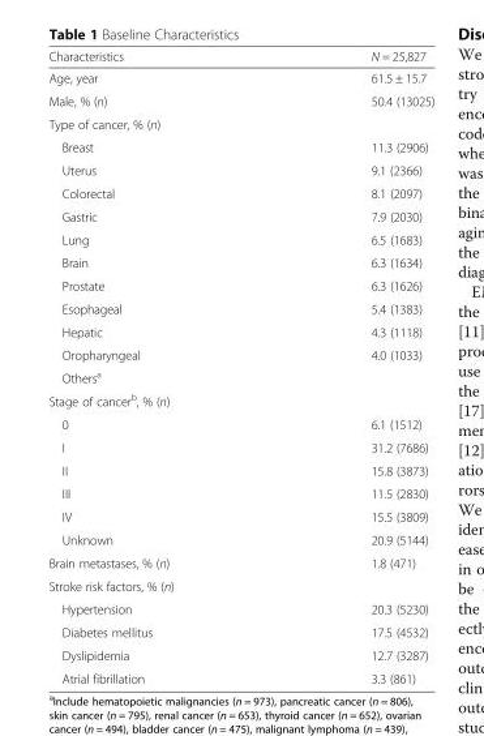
<table><thead><tr><td>Characteristics</td><td>N = 25,827</td></tr></thead><tbody><tr><td>Age, year</td><td>61.5 ± 15.7</td></tr><tr><td>Male, % (n)</td><td>50.4 (13025)</td></tr><tr><td colspan="2">Type of cancer, % (n)</td></tr><tr><td>Breast</td><td>11.3 (2906)</td></tr><tr><td>Uterus</td><td>9.1 (2366)</td></tr><tr><td>Colorectal</td><td>8.1 (2097)</td></tr><tr><td>Gastric</td><td>7.9 (2030)</td></tr><tr><td>Lung</td><td>6.5 (1683)</td></tr><tr><td>Brain</td><td>6.3 (1634)</td></tr><tr><td>Prostate</td><td>6.3 (1626)</td></tr><tr><td>Esophageal</td><td>5.4 (1383)</td></tr><tr><td>Hepatic</td><td>4.3 (1118)</td></tr><tr><td>Oropharyngeal</td><td>4.0 (1033)</td></tr><tr><td colspan="2">Others<sup>a</sup></td></tr><tr><td colspan="2">Stage of cancer<sup>b</sup>, % (n)</td></tr><tr><td>0</td><td>6.1 (1512)</td></tr><tr><td>I</td><td>31.2 (7686)</td></tr><tr><td>II</td><td>15.8 (3873)</td></tr><tr><td>III</td><td>11.5 (2830)</td></tr><tr><td>IV</td><td>15.5 (3809)</td></tr><tr><td>Unknown</td><td>20.9 (5144)</td></tr><tr><td>Brain metastases, % (n)</td><td>1.8 (471)</td></tr><tr><td colspan="2">Stroke risk factors, % (n)</td></tr><tr><td>Hypertension</td><td>20.3 (5230)</td></tr><tr><td>Diabetes mellitus</td><td>17.5 (4532)</td></tr><tr><td>Dyslipidemia</td><td>12.7 (3287)</td></tr><tr><td>Atrial fibrillation</td><td>3.3 (861)</td></tr></tbody></table>